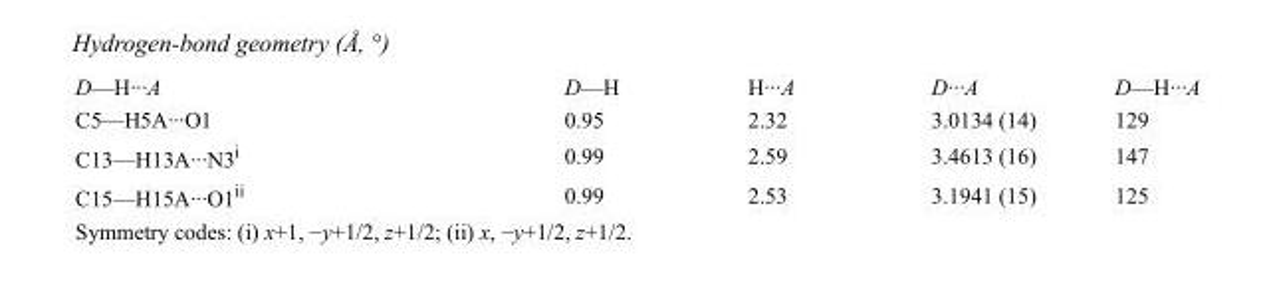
<table><tbody><tr><td>D—H···A</td><td>D—H</td><td>H···A</td><td>D···A</td><td>D—H···A</td></tr><tr><td>C5—H5A···O1</td><td>0.95</td><td>2.32</td><td>3.0134 (14)</td><td>129</td></tr><tr><td>C13—H13A···N3<sup>i</sup></td><td>0.99</td><td>2.59</td><td>3.4613 (16)</td><td>147</td></tr><tr><td>C15—H15A···O1<sup>ii</sup></td><td>0.99</td><td>2.53</td><td>3.1941 (15)</td><td>125</td></tr></tbody></table>